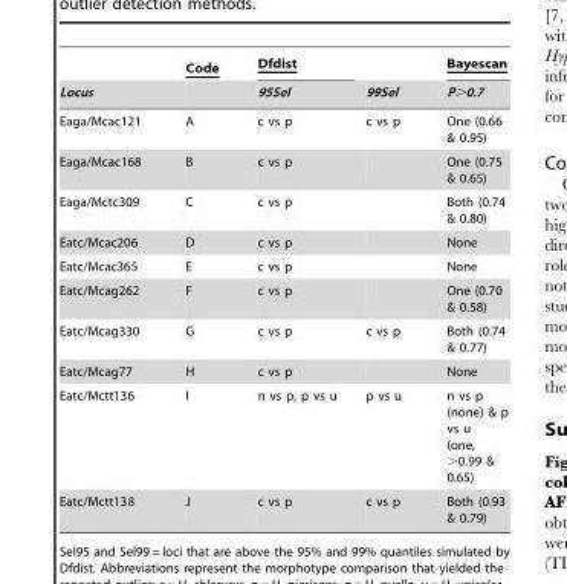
<table><thead><tr><td rowspan="2">Locus</td><td rowspan="2">Code</td><td rowspan="2">Dfdist 95Sel</td><td rowspan="2">99Sel</td><td rowspan="2">Bayescan P&gt;0.7</td></tr><tr></tr></thead><tbody><tr><td>Eaga/Mcac121</td><td>A</td><td>c vs p</td><td>c vs p</td><td>One (0.66 &amp; 0.95)</td></tr><tr><td>Eaga/Mcac168</td><td>B</td><td>c vs p</td><td></td><td>One (0.75 &amp; 0.65)</td></tr><tr><td>Eaga/Mctc309</td><td>C</td><td>c vs p</td><td></td><td>Both (0.74 &amp; 0.80)</td></tr><tr><td>Eatc/Mcac206</td><td>D</td><td>c vs p</td><td></td><td>None</td></tr><tr><td>Eatc/Mcac365</td><td>E</td><td>c vs p</td><td></td><td>None</td></tr><tr><td>Eatc/Mcag262</td><td>F</td><td>c vs p</td><td></td><td>One (0.70 &amp; 0.58)</td></tr><tr><td>Eatc/Mcag330</td><td>G</td><td>c vs p</td><td>c vs p</td><td>Both (0.74 &amp; 0.77)</td></tr><tr><td>Eatc/Mcag77</td><td>H</td><td>c vs p</td><td></td><td>None</td></tr><tr><td>Eatc/Mctt136</td><td>I</td><td>n vs p, p vs u</td><td>p vs u</td><td>n vs p (none) &amp; p vs u (one, &gt;0.99 &amp; 0.65)</td></tr><tr><td>Eatc/Mctt138</td><td>J</td><td>c vs p</td><td>c vs p</td><td>Both (0.93 &amp; 0.79)</td></tr></tbody></table>